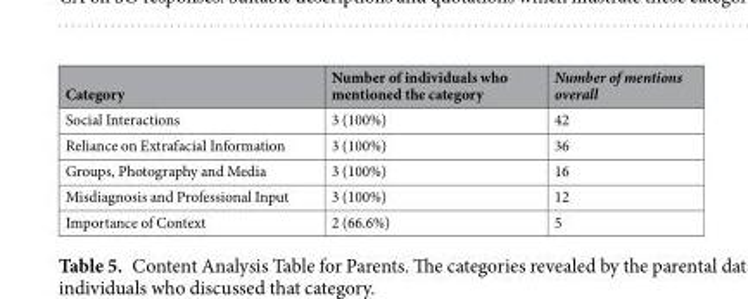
<table><thead><tr><td>Category</td><td>Number of individuals who mentioned the category</td><td>Number of mentions overall</td></tr></thead><tbody><tr><td>Social Interactions</td><td>3 (100%)</td><td>42</td></tr><tr><td>Reliance on Extrafacial Information</td><td>3 (100%)</td><td>36</td></tr><tr><td>Groups, Photography and Media</td><td>3 (100%)</td><td>16</td></tr><tr><td>Misdiagnosis and Professional Input</td><td>3 (100%)</td><td>12</td></tr><tr><td>Importance of Context</td><td>2 (66.6%)</td><td>5</td></tr></tbody></table>